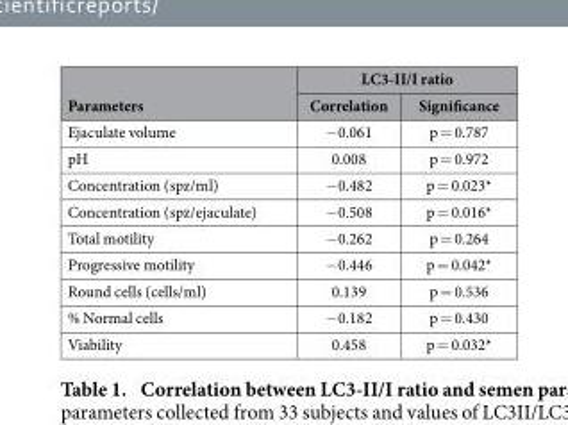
<table><thead><tr><td rowspan="2">Parameters</td><td colspan="2">LC3-II/I ratio</td></tr><tr><td>Correlation</td><td>Significance</td></tr></thead><tbody><tr><td>Ejaculate volume</td><td>− 0.061</td><td>p = 0.787</td></tr><tr><td>pH</td><td>0.008</td><td>p = 0.972</td></tr><tr><td>Concentration (spz/ml)</td><td>− 0.482</td><td>p = 0.023*</td></tr><tr><td>Concentration (spz/ejaculate)</td><td>− 0.508</td><td>p = 0.016*</td></tr><tr><td>Total motility</td><td>− 0.262</td><td>p = 0.264</td></tr><tr><td>Progressive motility</td><td>− 0.446</td><td>p = 0.042*</td></tr><tr><td>Round cells (cells/ml)</td><td>0.139</td><td>p = 0.536</td></tr><tr><td>% Normal cells</td><td>− 0.182</td><td>p = 0.430</td></tr><tr><td>Viability</td><td>0.458</td><td>p = 0.032*</td></tr></tbody></table>